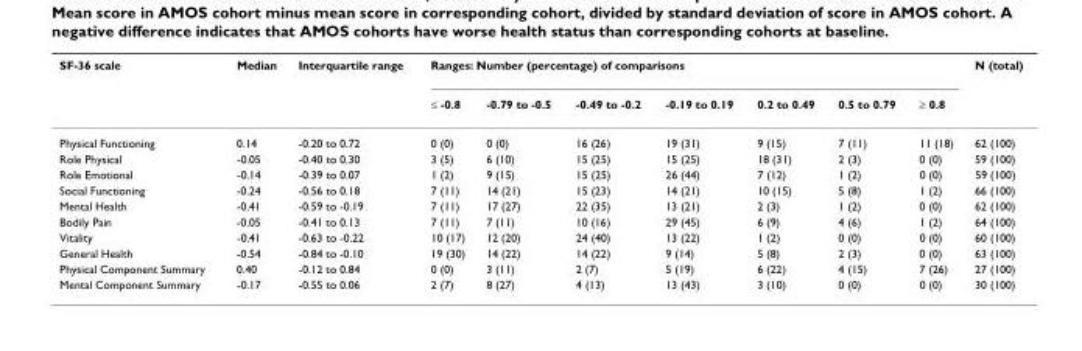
<table><thead><tr><td rowspan="2">SF-36 scale</td><td rowspan="2">Median</td><td rowspan="2">Interquartile range</td><td colspan="7">Ranges: Number (percentage) of comparisons</td><td rowspan="2">N (total)</td></tr><tr><td>≤ -0.8</td><td>-0.79 to -0.5</td><td>-0.49 to -0.2</td><td>-0.19 to 0.19</td><td>0.2 to 0.49</td><td>0.5 to 0.79</td><td>≥ 0.8</td></tr></thead><tbody><tr><td>Physical Functioning</td><td>0.14</td><td>-0.20 to 0.72</td><td>0 (0)</td><td>0 (0)</td><td>16 (26)</td><td>19 (31)</td><td>9 (15)</td><td>7 (11)</td><td>11 (18)</td><td>62 (100)</td></tr><tr><td>Role Physical</td><td>-0.05</td><td>-0.40 to 0.30</td><td>3 (5)</td><td>6 (10)</td><td>15 (25)</td><td>15 (25)</td><td>18 (31)</td><td>2 (3)</td><td>0 (0)</td><td>59 (100)</td></tr><tr><td>Role Emotional</td><td>-0.14</td><td>-0.39 to 0.07</td><td>1 (2)</td><td>9 (15)</td><td>15 (25)</td><td>26 (44)</td><td>7 (12)</td><td>1 (2)</td><td>0 (0)</td><td>59 (100)</td></tr><tr><td>Social Functioning</td><td>-0.24</td><td>-0.56 to 0.18</td><td>7 (11)</td><td>14 (21)</td><td>15 (23)</td><td>14 (21)</td><td>10 (15)</td><td>5 (8)</td><td>1 (2)</td><td>66 (100)</td></tr><tr><td>Mental Health</td><td>-0.41</td><td>-0.59 to -0.19</td><td>7 (11)</td><td>17 (27)</td><td>22 (35)</td><td>13 (21)</td><td>2 (3)</td><td>1 (2)</td><td>0 (0)</td><td>62 (100)</td></tr><tr><td>Bodily Pain</td><td>-0.05</td><td>-0.41 to 0.13</td><td>7 (11)</td><td>7 (11)</td><td>10 (16)</td><td>29 (45)</td><td>6 (9)</td><td>4 (6)</td><td>1 (2)</td><td>64 (100)</td></tr><tr><td>Vitality</td><td>-0.41</td><td>-0.63 to -0.22</td><td>10 (17)</td><td>12 (20)</td><td>24 (40)</td><td>13 (22)</td><td>1 (2)</td><td>0 (0)</td><td>0 (0)</td><td>60 (100)</td></tr><tr><td>General Health</td><td>-0.54</td><td>-0.84 to -0.10</td><td>19 (30)</td><td>14 (22)</td><td>14 (22)</td><td>9 (14)</td><td>5 (8)</td><td>2 (3)</td><td>0 (0)</td><td>63 (100)</td></tr><tr><td>Physical Component Summary</td><td>0.40</td><td>-0.12 to 0.84</td><td>0 (0)</td><td>3 (11)</td><td>2 (7)</td><td>5 (19)</td><td>6 (22)</td><td>4 (15)</td><td>7 (26)</td><td>27 (100)</td></tr><tr><td>Mental Component Summary</td><td>-0.17</td><td>-0.55 to 0.06</td><td>2 (7)</td><td>8 (27)</td><td>4 (13)</td><td>13 (43)</td><td>3 (10)</td><td>0 (0)</td><td>0 (0)</td><td>30 (100)</td></tr></tbody></table>